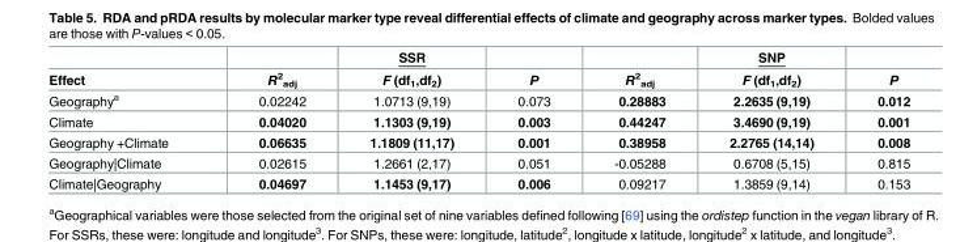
<table><thead><tr><td rowspan="2">Effect</td><td rowspan="2">R<sup>2</sup> <sub>adj</sub></td><td rowspan="2">SSR F (df<sub>1</sub>,df<sub>2</sub>)</td><td rowspan="2">P</td><td rowspan="2">R<sup>2</sup> <sub>adj</sub></td><td rowspan="2">SNP F (df<sub>1</sub>,df<sub>2</sub>)</td><td rowspan="2">P</td></tr><tr></tr></thead><tbody><tr><td>Geography<sup>a</sup></td><td>0.02242</td><td>1.0713 (9,19)</td><td>0.073</td><td>0.28883</td><td>2.2635 (9,19)</td><td>0.012</td></tr><tr><td>Climate</td><td>0.04020</td><td>1.1303 (9,19)</td><td>0.003</td><td>0.44247</td><td>3.4690 (9,19)</td><td>0.001</td></tr><tr><td>Geography +Climate</td><td>0.06635</td><td>1.1809 (11,17)</td><td>0.001</td><td>0.38958</td><td>2.2765 (14,14)</td><td>0.008</td></tr><tr><td>Geography|Climate</td><td>0.02615</td><td>1.2661 (2,17)</td><td>0.051</td><td>-0.05288</td><td>0.6708 (5,15)</td><td>0.815</td></tr><tr><td>Climate|Geography</td><td>0.04697</td><td>1.1453 (9,17)</td><td>0.006</td><td>0.09217</td><td>1.3859 (9,14)</td><td>0.153</td></tr></tbody></table>